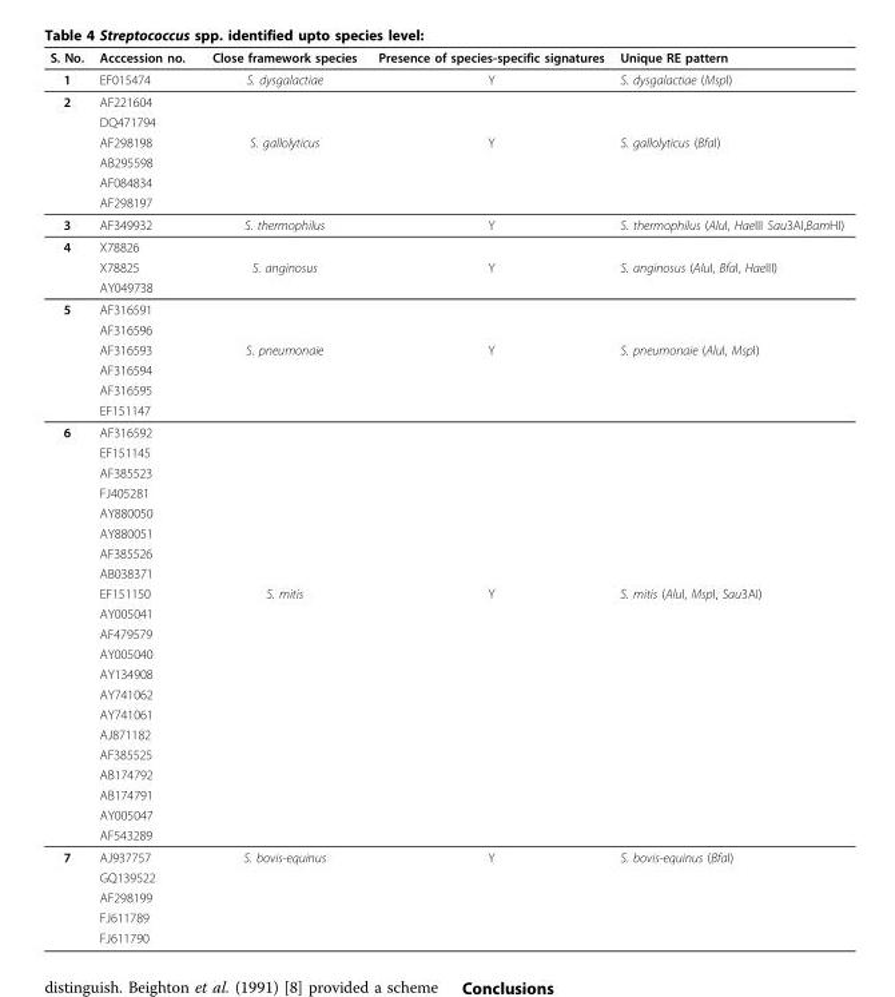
<table><thead><tr><td>S. No.</td><td>Acccession no.</td><td>Close framework species</td><td>Presence of species-specific signatures</td><td>Unique RE pattern</td></tr></thead><tbody><tr><td>1</td><td>EF015474</td><td>S. dysgalactiae</td><td>Y</td><td>S. dysgalactiae (MspI)</td></tr><tr><td rowspan="6">2</td><td>AF221604</td><td></td><td></td><td></td></tr><tr><td>DQ471794</td><td></td><td></td><td></td></tr><tr><td>AF298198</td><td>S. gallolyticus</td><td>Y</td><td>S. gallolyticus (BfaI)</td></tr><tr><td>AB295598</td><td></td><td></td><td></td></tr><tr><td>AF084834</td><td></td><td></td><td></td></tr><tr><td>AF298197</td><td></td><td></td><td></td></tr><tr><td>3</td><td>AF349932</td><td>S. thermophilus</td><td>Y</td><td>S. thermophilus (AluI, HaeIII Sau3AI,BamHI)</td></tr><tr><td rowspan="3">4</td><td>X78826</td><td></td><td></td><td></td></tr><tr><td>X78825</td><td>S. anginosus</td><td>Y</td><td>S. anginosus (AluI, BfaI, HaeIII)</td></tr><tr><td>AY049738</td><td></td><td></td><td></td></tr><tr><td rowspan="6">5</td><td>AF316591</td><td></td><td></td><td></td></tr><tr><td>AF316596</td><td></td><td></td><td></td></tr><tr><td>AF316593</td><td>S. pneumonaie</td><td>Y</td><td>S. pneumonaie (AluI, MspI)</td></tr><tr><td>AF316594</td><td></td><td></td><td></td></tr><tr><td>AF316595</td><td></td><td></td><td></td></tr><tr><td>EF151147</td><td></td><td></td><td></td></tr><tr><td rowspan="21">6</td><td>AF316592</td><td></td><td></td><td></td></tr><tr><td>EF151145</td><td></td><td></td><td></td></tr><tr><td>AF385523</td><td></td><td></td><td></td></tr><tr><td>FJ405281</td><td></td><td></td><td></td></tr><tr><td>AY880050</td><td></td><td></td><td></td></tr><tr><td>AY880051</td><td></td><td></td><td></td></tr><tr><td>AF385526</td><td></td><td></td><td></td></tr><tr><td>AB038371</td><td></td><td></td><td></td></tr><tr><td>EF151150</td><td>S. mitis</td><td>Y</td><td>S. mitis (AluI, MspI, Sau3AI)</td></tr><tr><td>AY005041</td><td></td><td></td><td></td></tr><tr><td>AF479579</td><td></td><td></td><td></td></tr><tr><td>AY005040</td><td></td><td></td><td></td></tr><tr><td>AY134908</td><td></td><td></td><td></td></tr><tr><td>AY741062</td><td></td><td></td><td></td></tr><tr><td>AY741061</td><td></td><td></td><td></td></tr><tr><td>AJ871182</td><td></td><td></td><td></td></tr><tr><td>AF385525</td><td></td><td></td><td></td></tr><tr><td>AB174792</td><td></td><td></td><td></td></tr><tr><td>AB174791</td><td></td><td></td><td></td></tr><tr><td>AY005047</td><td></td><td></td><td></td></tr><tr><td>AF543289</td><td></td><td></td><td></td></tr><tr><td rowspan="5">7</td><td>AJ937757</td><td>S. bovis-equinus</td><td>Y</td><td>S. bovis-equinus (BfaI)</td></tr><tr><td>GQ139522</td><td></td><td></td><td></td></tr><tr><td>AF298199</td><td></td><td></td><td></td></tr><tr><td>FJ611789</td><td></td><td></td><td></td></tr><tr><td>FJ611790</td><td></td><td></td><td></td></tr></tbody></table>